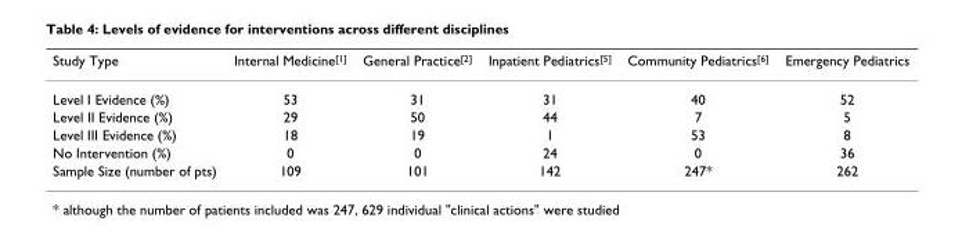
<table><thead><tr><td>Study Type</td><td>Internal Medicine<sup>[1]</sup></td><td>General Practice<sup>[2]</sup></td><td>Inpatient Pediatrics<sup>[5]</sup></td><td>Community Pediatrics<sup>[6]</sup></td><td>Emergency Pediatrics</td></tr></thead><tbody><tr><td>Level I Evidence (%)</td><td>53</td><td>31</td><td>31</td><td>40</td><td>52</td></tr><tr><td>Level II Evidence (%)</td><td>29</td><td>50</td><td>44</td><td>7</td><td>5</td></tr><tr><td>Level III Evidence (%)</td><td>18</td><td>19</td><td>1</td><td>53</td><td>8</td></tr><tr><td>No Intervention (%)</td><td>0</td><td>0</td><td>24</td><td>0</td><td>36</td></tr><tr><td>Sample Size (number of pts)</td><td>109</td><td>101</td><td>142</td><td>247*</td><td>262</td></tr></tbody></table>